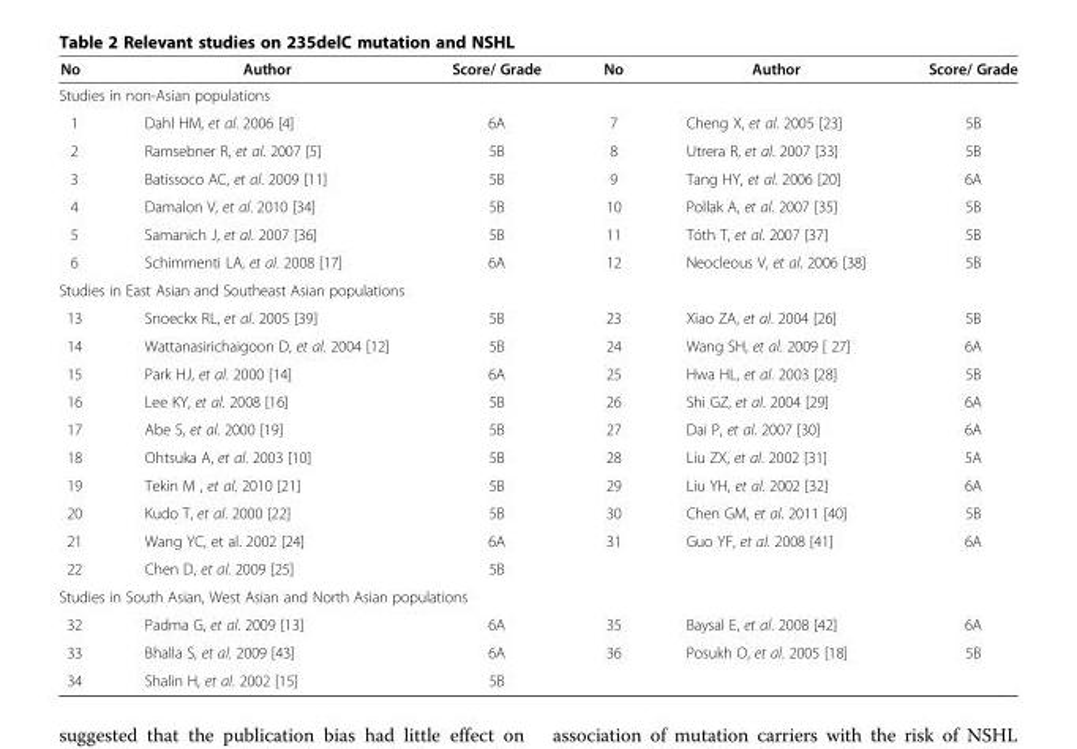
<table><thead><tr><td>No</td><td>Author</td><td>Score/ Grade</td><td>No</td><td>Author</td><td>Score/ Grade</td></tr></thead><tbody><tr><td colspan="6">Studies in non-Asian populations</td></tr><tr><td>1</td><td>Dahl HM, et al. 2006 [4]</td><td>6A</td><td>7</td><td>Cheng X, et al. 2005 [23]</td><td>5B</td></tr><tr><td>2</td><td>Ramsebner R, et al. 2007 [5]</td><td>5B</td><td>8</td><td>Utrera R, et al. 2007 [33]</td><td>5B</td></tr><tr><td>3</td><td>Batissoco AC, et al. 2009 [11]</td><td>5B</td><td>9</td><td>Tang HY, et al. 2006 [20]</td><td>6A</td></tr><tr><td>4</td><td>Damalon V, et al. 2010 [34]</td><td>5B</td><td>10</td><td>Pollak A, et al. 2007 [35]</td><td>5B</td></tr><tr><td>5</td><td>Samanich J, et al. 2007 [36]</td><td>5B</td><td>11</td><td>Tóth T, et al. 2007 [37]</td><td>5B</td></tr><tr><td>6</td><td>Schimmenti LA, et al. 2008 [17]</td><td>6A</td><td>12</td><td>Neocleous V, et al. 2006 [38]</td><td>5B</td></tr><tr><td colspan="6">Studies in East Asian and Southeast Asian populations</td></tr><tr><td>13</td><td>Snoeckx RL, et al. 2005 [39]</td><td>5B</td><td>23</td><td>Xiao ZA, et al. 2004 [26]</td><td>5B</td></tr><tr><td>14</td><td>Wattanasirichaigoon D, et al. 2004 [12]</td><td>5B</td><td>24</td><td>Wang SH, et al. 2009 [ 27]</td><td>6A</td></tr><tr><td>15</td><td>Park HJ, et al. 2000 [14]</td><td>6A</td><td>25</td><td>Hwa HL, et al. 2003 [28]</td><td>5B</td></tr><tr><td>16</td><td>Lee KY, et al. 2008 [16]</td><td>5B</td><td>26</td><td>Shi GZ, et al. 2004 [29]</td><td>6A</td></tr><tr><td>17</td><td>Abe S, et al. 2000 [19]</td><td>5B</td><td>27</td><td>Dai P, et al. 2007 [30]</td><td>6A</td></tr><tr><td>18</td><td>Ohtsuka A, et al. 2003 [10]</td><td>5B</td><td>28</td><td>Liu ZX, et al. 2002 [31]</td><td>5A</td></tr><tr><td>19</td><td>Tekin M , et al. 2010 [21]</td><td>5B</td><td>29</td><td>Liu YH, et al. 2002 [32]</td><td>6A</td></tr><tr><td>20</td><td>Kudo T, et al. 2000 [22]</td><td>5B</td><td>30</td><td>Chen GM, et al. 2011 [40]</td><td>5B</td></tr><tr><td>21</td><td>Wang YC, et al. 2002 [24]</td><td>6A</td><td>31</td><td>Guo YF, et al. 2008 [41]</td><td>6A</td></tr><tr><td>22</td><td>Chen D, et al. 2009 [25]</td><td>5B</td><td></td><td></td><td></td></tr><tr><td colspan="6">Studies in South Asian, West Asian and North Asian populations</td></tr><tr><td>32</td><td>Padma G, et al. 2009 [13]</td><td>6A</td><td>35</td><td>Baysal E, et al. 2008 [42]</td><td>6A</td></tr><tr><td>33</td><td>Bhalla S, et al. 2009 [43]</td><td>6A</td><td>36</td><td>Posukh O, et al. 2005 [18]</td><td>5B</td></tr><tr><td>34</td><td>Shalin H, et al. 2002 [15]</td><td>5B</td><td></td><td></td><td></td></tr></tbody></table>